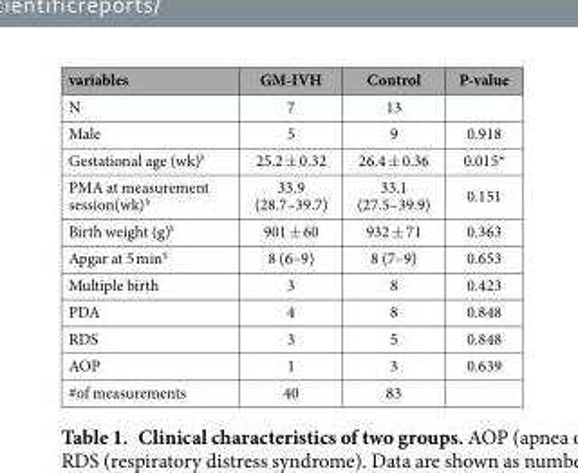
<table><thead><tr><td>variables</td><td>GM-IVH</td><td>Control</td><td>P-value</td></tr></thead><tbody><tr><td>N</td><td>7</td><td>13</td><td></td></tr><tr><td>Male</td><td>5</td><td>9</td><td>0.918</td></tr><tr><td>Gestational age (wk)♭</td><td>25.2 ± 0.32</td><td>26.4 ± 0.36</td><td>0.015*</td></tr><tr><td>PMA at measurement session(wk)§</td><td>33.9 (28.7–39.7)</td><td>33.1 (27.5–39.9)</td><td>0.151</td></tr><tr><td>Birth weight (g)♭</td><td>901 ± 60</td><td>932 ± 71</td><td>0.363</td></tr><tr><td>Apgar at 5 min§</td><td>8 (6–9)</td><td>8 (7–9)</td><td>0.653</td></tr><tr><td>Multiple birth</td><td>3</td><td>8</td><td>0.423</td></tr><tr><td>PDA</td><td>4</td><td>8</td><td>0.848</td></tr><tr><td>RDS</td><td>3</td><td>5</td><td>0.848</td></tr><tr><td>AOP</td><td>1</td><td>3</td><td>0.639</td></tr><tr><td>#of measurements</td><td>40</td><td>83</td><td></td></tr></tbody></table>